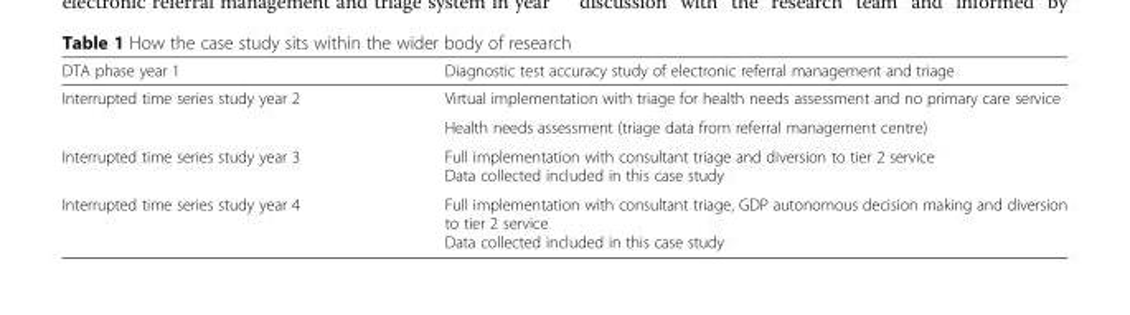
<table><thead><tr><td>DTA phase year 1</td><td>Diagnostic test accuracy study of electronic referral management and triage</td></tr></thead><tbody><tr><td rowspan="2">Interrupted time series study year 2</td><td>Virtual implementation with triage for health needs assessment and no primary care service</td></tr><tr><td>Health needs assessment (triage data from referral management centre)</td></tr><tr><td>Interrupted time series study year 3</td><td>Full implementation with consultant triage and diversion to tier 2 service Data collected included in this case study</td></tr><tr><td>Interrupted time series study year 4</td><td>Full implementation with consultant triage, GDP autonomous decision making and diversion to tier 2 service Data collected included in this case study</td></tr></tbody></table>